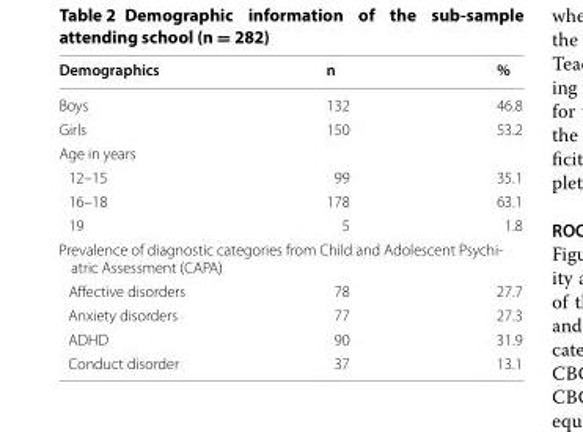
<table><thead><tr><td>Demographics</td><td>n</td><td>%</td></tr></thead><tbody><tr><td>Boys</td><td>132</td><td>46.8</td></tr><tr><td>Girls</td><td>150</td><td>53.2</td></tr><tr><td colspan="3">Age in years</td></tr><tr><td>12–15</td><td>99</td><td>35.1</td></tr><tr><td>16–18</td><td>178</td><td>63.1</td></tr><tr><td>19</td><td>5</td><td>1.8</td></tr><tr><td colspan="3">Prevalence of diagnostic categories from Child and Adolescent Psychi- atric Assessment (CAPA)</td></tr><tr><td>Affective disorders</td><td>78</td><td>27.7</td></tr><tr><td>Anxiety disorders</td><td>77</td><td>27.3</td></tr><tr><td>ADHD</td><td>90</td><td>31.9</td></tr><tr><td>Conduct disorder</td><td>37</td><td>13.1</td></tr></tbody></table>